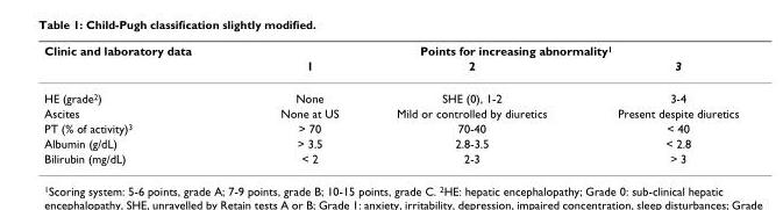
<table><thead><tr><td rowspan="2">Clinic and laboratory data</td><td colspan="3">Points for increasing abnormality<sup>1</sup></td></tr><tr><td>1</td><td>2</td><td>3</td></tr></thead><tbody><tr><td>HE (grade<sup>2</sup>)</td><td>None</td><td>SHE (0), 1-2</td><td>3-4</td></tr><tr><td>Ascites</td><td>None at US</td><td>Mild or controlled by diuretics</td><td>Present despite diuretics</td></tr><tr><td>PT (% of activity)<sup>3</sup></td><td>&gt; 70</td><td>70-40</td><td>&lt; 40</td></tr><tr><td>Albumin (g/dL)</td><td>&gt; 3.5</td><td>2.8-3.5</td><td>&lt; 2.8</td></tr><tr><td>Bilirubin (mg/dL)</td><td>&lt; 2</td><td>2-3</td><td>&gt; 3</td></tr></tbody></table>